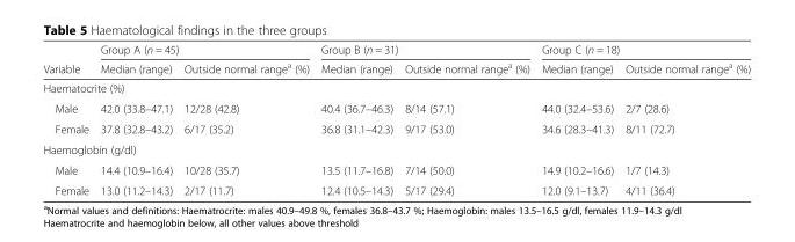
<table><thead><tr><td rowspan="2">Variable</td><td colspan="2">Group A (n = 45)</td><td colspan="2">Group B (n = 31)</td><td colspan="2">Group C (n = 18)</td></tr><tr><td>Median (range)</td><td>Outside normal range<sup>a</sup> (%)</td><td>Median (range)</td><td>Outside normal range<sup>a</sup> (%)</td><td>Median (range)</td><td>Outside normal range<sup>a</sup> (%)</td></tr></thead><tbody><tr><td colspan="7">Haematocrite (%)</td></tr><tr><td>Male</td><td>42.0 (33.8–47.1)</td><td>12/28 (42.8)</td><td>40.4 (36.7–46.3)</td><td>8/14 (57.1)</td><td>44.0 (32.4–53.6)</td><td>2/7 (28.6)</td></tr><tr><td>Female</td><td>37.8 (32.8–43.2)</td><td>6/17 (35.2)</td><td>36.8 (31.1–42.3)</td><td>9/17 (53.0)</td><td>34.6 (28.3–41.3)</td><td>8/11 (72.7)</td></tr><tr><td colspan="7">Haemoglobin (g/dl)</td></tr><tr><td>Male</td><td>14.4 (10.9–16.4)</td><td>10/28 (35.7)</td><td>13.5 (11.7–16.8)</td><td>7/14 (50.0)</td><td>14.9 (10.2–16.6)</td><td>1/7 (14.3)</td></tr><tr><td>Female</td><td>13.0 (11.2–14.3)</td><td>2/17 (11.7)</td><td>12.4 (10.5–14.3)</td><td>5/17 (29.4)</td><td>12.0 (9.1–13.7)</td><td>4/11 (36.4)</td></tr></tbody></table>